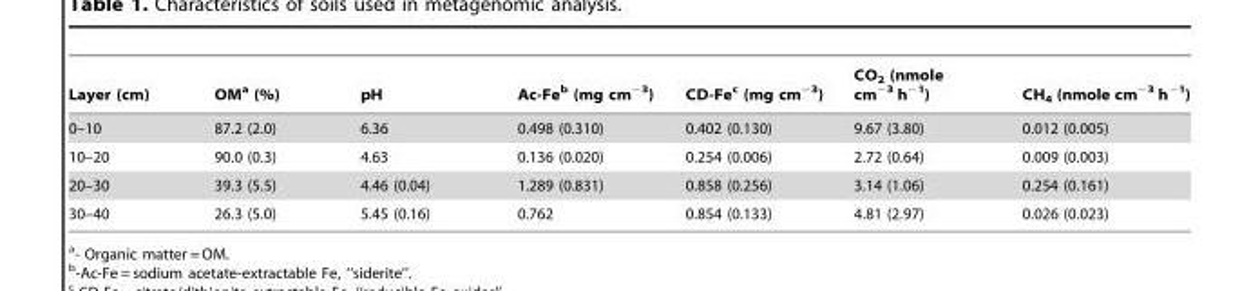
<table><thead><tr><td>Layer (cm)</td><td>OM<sup>a</sup> (%)</td><td>pH</td><td>Ac-Fe<sup>b</sup> (mg cm<sup>−3</sup>)</td><td>CD-Fe<sup>c</sup> (mg cm<sup>−3</sup>)</td><td>CO<sub>2</sub> (nmole cm<sup>−3</sup> h<sup>−1</sup>)</td><td>CH<sub>4</sub> (nmole cm<sup>−3</sup> h<sup>−1</sup>)</td></tr></thead><tbody><tr><td>0–10</td><td>87.2 (2.0)</td><td>6.36</td><td>0.498 (0.310)</td><td>0.402 (0.130)</td><td>9.67 (3.80)</td><td>0.012 (0.005)</td></tr><tr><td>10–20</td><td>90.0 (0.3)</td><td>4.63</td><td>0.136 (0.020)</td><td>0.254 (0.006)</td><td>2.72 (0.64)</td><td>0.009 (0.003)</td></tr><tr><td>20–30</td><td>39.3 (5.5)</td><td>4.46 (0.04)</td><td>1.289 (0.831)</td><td>0.858 (0.256)</td><td>3.14 (1.06)</td><td>0.254 (0.161)</td></tr><tr><td>30–40</td><td>26.3 (5.0)</td><td>5.45 (0.16)</td><td>0.762</td><td>0.854 (0.133)</td><td>4.81 (2.97)</td><td>0.026 (0.023)</td></tr></tbody></table>